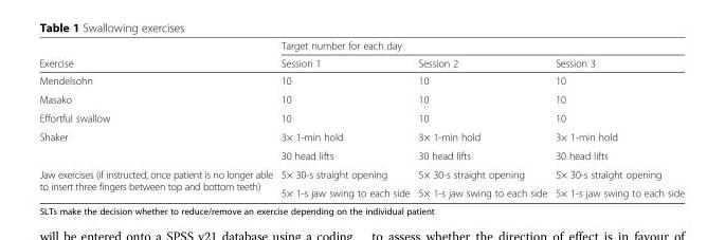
<table><thead><tr><td rowspan="2">Exercise</td><td colspan="3">Target number for each day</td></tr><tr><td>Session 1</td><td>Session 2</td><td>Session 3</td></tr></thead><tbody><tr><td>Mendelsohn</td><td>10</td><td>10</td><td>10</td></tr><tr><td>Masako</td><td>10</td><td>10</td><td>10</td></tr><tr><td>Effortful swallow</td><td>10</td><td>10</td><td>10</td></tr><tr><td rowspan="2">Shaker</td><td>3× 1-min hold</td><td>3× 1-min hold</td><td>3× 1-min hold</td></tr><tr><td>30 head lifts</td><td>30 head lifts</td><td>30 head lifts</td></tr><tr><td rowspan="2">Jaw exercises (if instructed, once patient is no longer able to insert three fingers between top and bottom teeth)</td><td>5× 30-s straight opening</td><td>5× 30-s straight opening</td><td>5× 30-s straight opening</td></tr><tr><td>5× 1-s jaw swing to each side</td><td>5× 1-s jaw swing to each side</td><td>5× 1-s jaw swing to each side</td></tr></tbody></table>